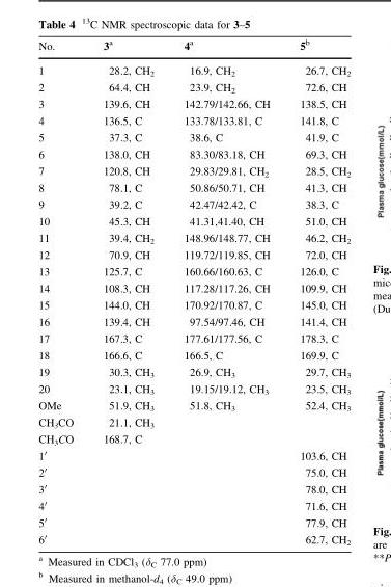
<table><thead><tr><td>No.</td><td>3<sup>a</sup></td><td>4<sup>a</sup></td><td>5<sup>b</sup></td></tr></thead><tbody><tr><td>1</td><td>28.2, CH<sub>2</sub></td><td>16.9, CH<sub>2</sub></td><td>26.7, CH<sub>2</sub></td></tr><tr><td>2</td><td>64.4, CH</td><td>23.9, CH<sub>2</sub></td><td>72.6, CH</td></tr><tr><td>3</td><td>139.6, CH</td><td>142.79/142.66, CH</td><td>138.5, CH</td></tr><tr><td>4</td><td>136.5, C</td><td>133.78/133.81, C</td><td>141.8, C</td></tr><tr><td>5</td><td>37.3, C</td><td>38.6, C</td><td>41.9, C</td></tr><tr><td>6</td><td>138.0, CH</td><td>83.30/83.18, CH</td><td>69.3, CH</td></tr><tr><td>7</td><td>120.8, CH</td><td>29.83/29.81, CH<sub>2</sub></td><td>28.5, CH<sub>2</sub></td></tr><tr><td>8</td><td>78.1, C</td><td>50.86/50.71, CH</td><td>41.3, CH</td></tr><tr><td>9</td><td>39.2, C</td><td>42.47/42.42, C</td><td>38.3, C</td></tr><tr><td>10</td><td>45.3, CH</td><td>41.31,41.40, CH</td><td>51.0, CH</td></tr><tr><td>11</td><td>39.4, CH<sub>2</sub></td><td>148.96/148.77, CH</td><td>46.2, CH<sub>2</sub></td></tr><tr><td>12</td><td>70.9, CH</td><td>119.72/119.85, CH</td><td>72.0, CH</td></tr><tr><td>13</td><td>125.7, C</td><td>160.66/160.63, C</td><td>126.0, C</td></tr><tr><td>14</td><td>108.3, CH</td><td>117.28/117.26, CH</td><td>109.9, CH</td></tr><tr><td>15</td><td>144.0, CH</td><td>170.92/170.87, C</td><td>145.0, CH</td></tr><tr><td>16</td><td>139.4, CH</td><td>97.54/97.46, CH</td><td>141.4, CH</td></tr><tr><td>17</td><td>167.3, C</td><td>177.61/177.56, C</td><td>178.3, C</td></tr><tr><td>18</td><td>166.6, C</td><td>166.5, C</td><td>169.9, C</td></tr><tr><td>19</td><td>30.3, CH<sub>3</sub></td><td>26.9, CH<sub>3</sub></td><td>29.7, CH<sub>3</sub></td></tr><tr><td>20</td><td>23.1, CH<sub>3</sub></td><td>19.15/19.12, CH<sub>3</sub></td><td>23.5, CH<sub>3</sub></td></tr><tr><td>OMe</td><td>51.9, CH<sub>3</sub></td><td>51.8, CH<sub>3</sub></td><td>52.4, CH<sub>3</sub></td></tr><tr><td>CH<sub>3</sub>CO</td><td>21.1, CH<sub>3</sub></td><td></td><td></td></tr><tr><td>CH<sub>3</sub>CO</td><td>168.7, C</td><td></td><td></td></tr><tr><td>1′</td><td></td><td></td><td>103.6, CH</td></tr><tr><td>2′</td><td></td><td></td><td>75.0, CH</td></tr><tr><td>3′</td><td></td><td></td><td>78.0, CH</td></tr><tr><td>4′</td><td></td><td></td><td>71.6, CH</td></tr><tr><td>5′</td><td></td><td></td><td>77.9, CH</td></tr><tr><td>6′</td><td></td><td></td><td>62.7, CH<sub>2</sub></td></tr></tbody></table>